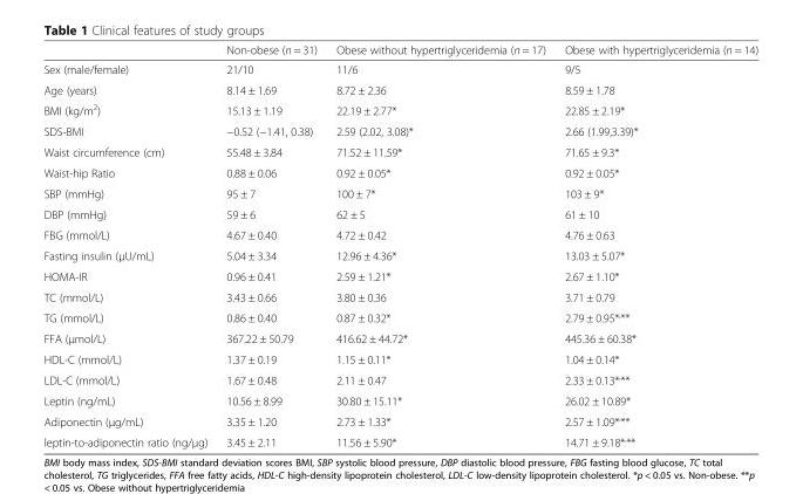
<table><thead><tr><td></td><td>Non-obese (n = 31)</td><td>Obese without hypertriglyceridemia (n = 17)</td><td>Obese with hypertriglyceridemia (n = 14)</td></tr></thead><tbody><tr><td>Sex (male/female)</td><td>21/10</td><td>11/6</td><td>9/5</td></tr><tr><td>Age (years)</td><td>8.14 ± 1.69</td><td>8.72 ± 2.36</td><td>8.59 ± 1.78</td></tr><tr><td>BMI (kg/m<sup>2</sup>)</td><td>15.13 ± 1.19</td><td>22.19 ± 2.77*</td><td>22.85 ± 2.19*</td></tr><tr><td>SDS-BMI</td><td>−0.52 (−1.41, 0.38)</td><td>2.59 (2.02, 3.08)*</td><td>2.66 (1.99,3.39)*</td></tr><tr><td>Waist circumference (cm)</td><td>55.48 ± 3.84</td><td>71.52 ± 11.59*</td><td>71.65 ± 9.3*</td></tr><tr><td>Waist-hip Ratio</td><td>0.88 ± 0.06</td><td>0.92 ± 0.05*</td><td>0.92 ± 0.05*</td></tr><tr><td>SBP (mmHg)</td><td>95 ± 7</td><td>100 ± 7*</td><td>103 ± 9*</td></tr><tr><td>DBP (mmHg)</td><td>59 ± 6</td><td>62 ± 5</td><td>61 ± 10</td></tr><tr><td>FBG (mmol/L)</td><td>4.67 ± 0.40</td><td>4.72 ± 0.42</td><td>4.76 ± 0.63</td></tr><tr><td>Fasting insulin (μU/mL)</td><td>5.04 ± 3.34</td><td>12.96 ± 4.36*</td><td>13.03 ± 5.07*</td></tr><tr><td>HOMA-IR</td><td>0.96 ± 0.41</td><td>2.59 ± 1.21*</td><td>2.67 ± 1.10*</td></tr><tr><td>TC (mmol/L)</td><td>3.43 ± 0.66</td><td>3.80 ± 0.36</td><td>3.71 ± 0.79</td></tr><tr><td>TG (mmol/L)</td><td>0.86 ± 0.40</td><td>0.87 ± 0.32*</td><td>2.79 ± 0.95*<sup>,</sup>**</td></tr><tr><td>FFA (μmol/L)</td><td>367.22 ± 50.79</td><td>416.62 ± 44.72*</td><td>445.36 ± 60.38*</td></tr><tr><td>HDL-C (mmol/L)</td><td>1.37 ± 0.19</td><td>1.15 ± 0.11*</td><td>1.04 ± 0.14*</td></tr><tr><td>LDL-C (mmol/L)</td><td>1.67 ± 0.48</td><td>2.11 ± 0.47</td><td>2.33 ± 0.13*<sup>,</sup>**</td></tr><tr><td>Leptin (ng/mL)</td><td>10.56 ± 8.99</td><td>30.80 ± 15.11*</td><td>26.02 ± 10.89*</td></tr><tr><td>Adiponectin (μg/mL)</td><td>3.35 ± 1.20</td><td>2.73 ± 1.33*</td><td>2.57 ± 1.09*<sup>,</sup>**</td></tr><tr><td>leptin-to-adiponectin ratio (ng/μg)</td><td>3.45 ± 2.11</td><td>11.56 ± 5.90*</td><td>14.71 ± 9.18*<sup>,</sup>**</td></tr></tbody></table>